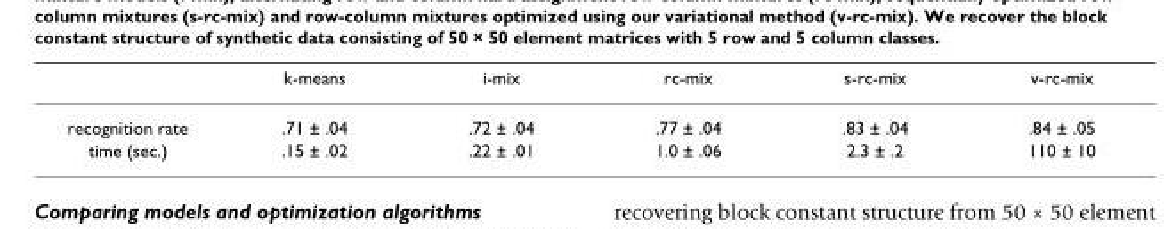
<table><thead><tr><td></td><td>k-means</td><td>i-mix</td><td>rc-mix</td><td>s-rc-mix</td><td>v-rc-mix</td></tr></thead><tbody><tr><td>recognition rate</td><td>.71 ± .04</td><td>.72 ± .04</td><td>.77 ± .04</td><td>.83 ± .04</td><td>.84 ± .05</td></tr><tr><td>time (sec.)</td><td>.15 ± .02</td><td>.22 ± .01</td><td>1.0 ± .06</td><td>2.3 ± .2</td><td>110 ± 10</td></tr></tbody></table>